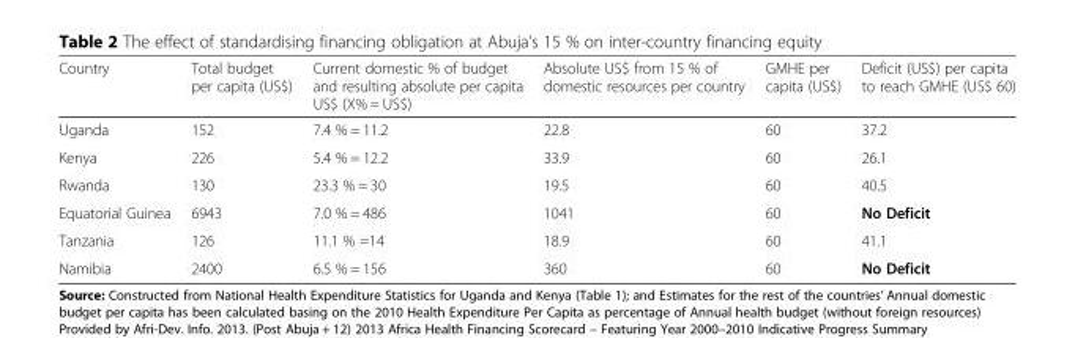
<table><thead><tr><td>Country</td><td>Total budget per capita (US$)</td><td>Current domestic % of budget and resulting absolute per capita US$ (X% = US$)</td><td>Absolute US$ from 15 % of domestic resources per country</td><td>GMHE per capita (US$)</td><td>Deficit (US$) per capita to reach GMHE (US$ 60)</td></tr></thead><tbody><tr><td>Uganda</td><td>152</td><td>7.4 % = 11.2</td><td>22.8</td><td>60</td><td>37.2</td></tr><tr><td>Kenya</td><td>226</td><td>5.4 % = 12.2</td><td>33.9</td><td>60</td><td>26.1</td></tr><tr><td>Rwanda</td><td>130</td><td>23.3 % = 30</td><td>19.5</td><td>60</td><td>40.5</td></tr><tr><td>Equatorial Guinea</td><td>6943</td><td>7.0 % = 486</td><td>1041</td><td>60</td><td>No Deficit</td></tr><tr><td>Tanzania</td><td>126</td><td>11.1 % =14</td><td>18.9</td><td>60</td><td>41.1</td></tr><tr><td>Namibia</td><td>2400</td><td>6.5 % = 156</td><td>360</td><td>60</td><td>No Deficit</td></tr></tbody></table>